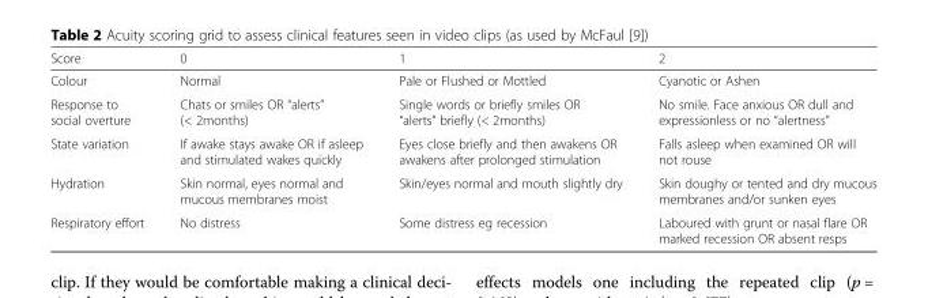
<table><thead><tr><td>Score</td><td>0</td><td>1</td><td>2</td></tr></thead><tbody><tr><td>Colour</td><td>Normal</td><td>Pale or Flushed or Mottled</td><td>Cyanotic or Ashen</td></tr><tr><td>Response to social overture</td><td>Chats or smiles OR “alerts” (&lt; 2months)</td><td>Single words or briefly smiles OR “alerts” briefly (&lt; 2months)</td><td>No smile. Face anxious OR dull and expressionless or no “alertness”</td></tr><tr><td>State variation</td><td>If awake stays awake OR if asleep and stimulated wakes quickly</td><td>Eyes close briefly and then awakens OR awakens after prolonged stimulation</td><td>Falls asleep when examined OR will not rouse</td></tr><tr><td>Hydration</td><td>Skin normal, eyes normal and mucous membranes moist</td><td>Skin/eyes normal and mouth slightly dry</td><td>Skin doughy or tented and dry mucous membranes and/or sunken eyes</td></tr><tr><td>Respiratory effort</td><td>No distress</td><td>Some distress eg recession</td><td>Laboured with grunt or nasal flare OR marked recession OR absent resps</td></tr></tbody></table>